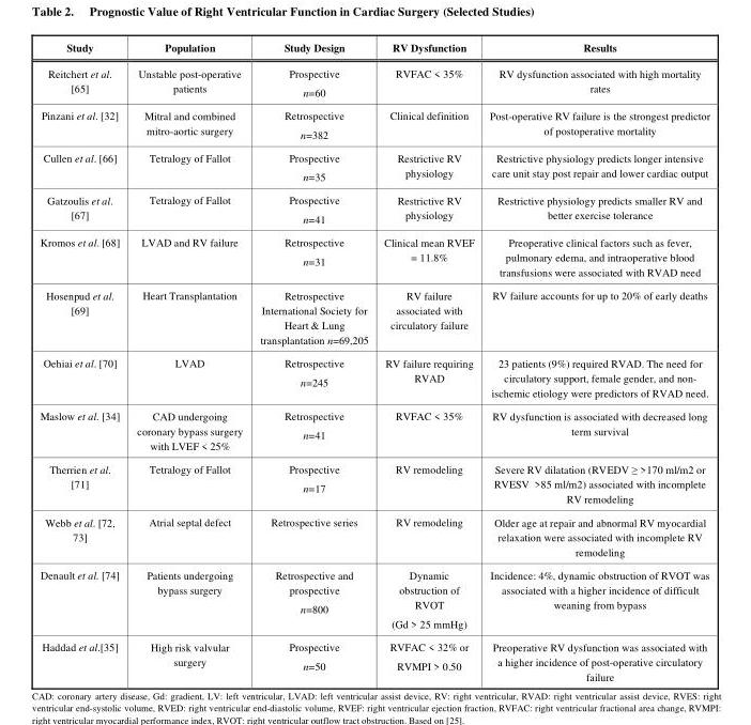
<table><thead><tr><td>Study</td><td>Population</td><td>Study Design</td><td>RV Dysfunction</td><td>Results</td></tr></thead><tbody><tr><td>Reitchert et al. [65]</td><td>Unstable post-operative patients</td><td>Prospective n=60</td><td>RVFAC &lt; 35%</td><td>RV dysfunction associated with high mortality rates</td></tr><tr><td>Pinzani et al. [32]</td><td>Mitral and combined mitro-aortic surgery</td><td>Retrospective n=382</td><td>Clinical definition</td><td>Post-operative RV failure is the strongest predictor of postoperative mortality</td></tr><tr><td>Cullen et al. [66]</td><td>Tetralogy of Fallot</td><td>Prospective n=35</td><td>Restrictive RV physiology</td><td>Restrictive physiology predicts longer intensive care unit stay post repair and lower cardiac output</td></tr><tr><td>Gatzoulis et al. [67]</td><td>Tetralogy of Fallot</td><td>Prospective n=41</td><td>Restrictive RV physiology</td><td>Restrictive physiology predicts smaller RV and better exercise tolerance</td></tr><tr><td>Kromos et al. [68]</td><td>LVAD and RV failure</td><td>Retrospective n=31</td><td>Clinical mean RVEF = 11.8%</td><td>Preoperative clinical factors such as fever, pulmonary edema, and intraoperative blood transfusions were associated with RVAD need</td></tr><tr><td>Hosenpud et al. [69]</td><td>Heart Transplantation</td><td>Retrospective International Society for Heart &amp; Lung transplantation n=69,205</td><td>RV failure associated with circulatory failure</td><td>RV failure accounts for up to 20% of early deaths</td></tr><tr><td>Oehiai et al. [70]</td><td>LVAD</td><td>Retrospective n=245</td><td>RV failure requiring RVAD</td><td>23 patients (9%) required RVAD. The need for circulatory support, female gender, and non- ischemic etiology were predictors of RVAD need.</td></tr><tr><td>Maslow et al. [34]</td><td>CAD undergoing coronary bypass surgery with LVEF &lt; 25%</td><td>Retrospective n=41</td><td>RVFAC &lt; 35%</td><td>RV dysfunction is associated with decreased long term survival</td></tr><tr><td>Therrien et al. [71]</td><td>Tetralogy of Fallot</td><td>Prospective n=17</td><td>RV remodeling</td><td>Severe RV dilatation (RVEDV ≥ &gt;170 ml/m2 or RVESV &gt;85 ml/m2) associated with incomplete RV remodeling</td></tr><tr><td>Webb et al. [72, 73]</td><td>Atrial septal defect</td><td>Retrospective series</td><td>RV remodeling</td><td>Older age at repair and abnormal RV myocardial relaxation were associated with incomplete RV remodeling</td></tr><tr><td>Denault et al. [74]</td><td>Patients undergoing bypass surgery</td><td>Retrospective and prospective n=800</td><td>Dynamic obstruction of RVOT (Gd &gt; 25 mmHg)</td><td>Incidence: 4%, dynamic obstruction of RVOT was associated with a higher incidence of difficult weaning from bypass</td></tr><tr><td>Haddad et al.[35]</td><td>High risk valvular surgery</td><td>Prospective n=50</td><td>RVFAC &lt; 32% or RVMPI &gt; 0.50</td><td>Preoperative RV dysfunction was associated with a higher incidence of post-operative circulatory failure</td></tr></tbody></table>